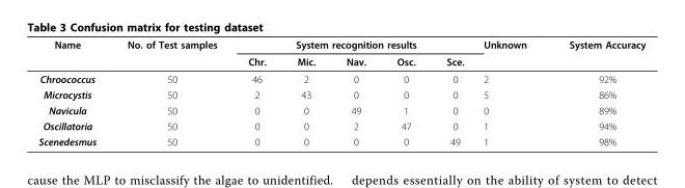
<table><thead><tr><td rowspan="2">Name</td><td rowspan="2">No. of Test samples</td><td colspan="5">System recognition results</td><td rowspan="2">Unknown</td><td rowspan="2">System Accuracy</td></tr><tr><td>Chr.</td><td>Mic.</td><td>Nav.</td><td>Osc.</td><td>Sce.</td></tr></thead><tbody><tr><td>Chroococcus</td><td>50</td><td>46</td><td>2</td><td>0</td><td>0</td><td>0</td><td>2</td><td>92%</td></tr><tr><td>Microcystis</td><td>50</td><td>2</td><td>43</td><td>0</td><td>0</td><td>0</td><td>5</td><td>86%</td></tr><tr><td>Navicula</td><td>50</td><td>0</td><td>0</td><td>49</td><td>1</td><td>0</td><td>0</td><td>89%</td></tr><tr><td>Oscillatoria</td><td>50</td><td>0</td><td>0</td><td>2</td><td>47</td><td>0</td><td>1</td><td>94%</td></tr><tr><td>Scenedesmus</td><td>50</td><td>0</td><td>0</td><td>0</td><td>0</td><td>49</td><td>1</td><td>98%</td></tr></tbody></table>